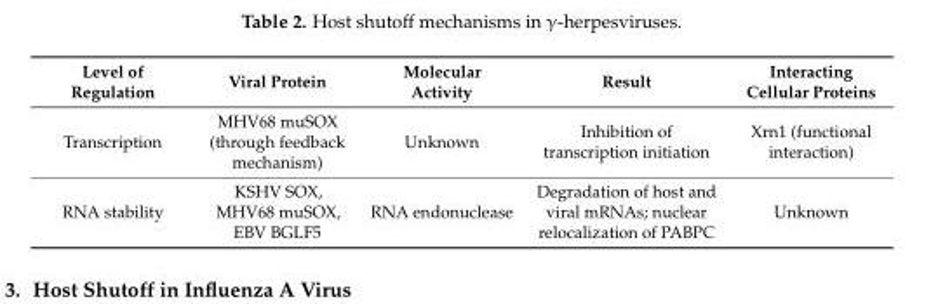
<table><thead><tr><td>Level of Regulation</td><td>Viral Protein</td><td>Molecular Activity</td><td>Result</td><td>Interacting Cellular Proteins</td></tr></thead><tbody><tr><td>Transcription</td><td>MHV68 muSOX (through feedback mechanism)</td><td>Unknown</td><td>Inhibition of transcription initiation</td><td>Xrn1 (functional interaction)</td></tr><tr><td>RNA stability</td><td>KSHV SOX, MHV68 muSOX, EBV BGLF5</td><td>RNA endonuclease</td><td>Degradation of host and viral mRNAs; nuclear relocalization of PABPC</td><td>Unknown</td></tr></tbody></table>